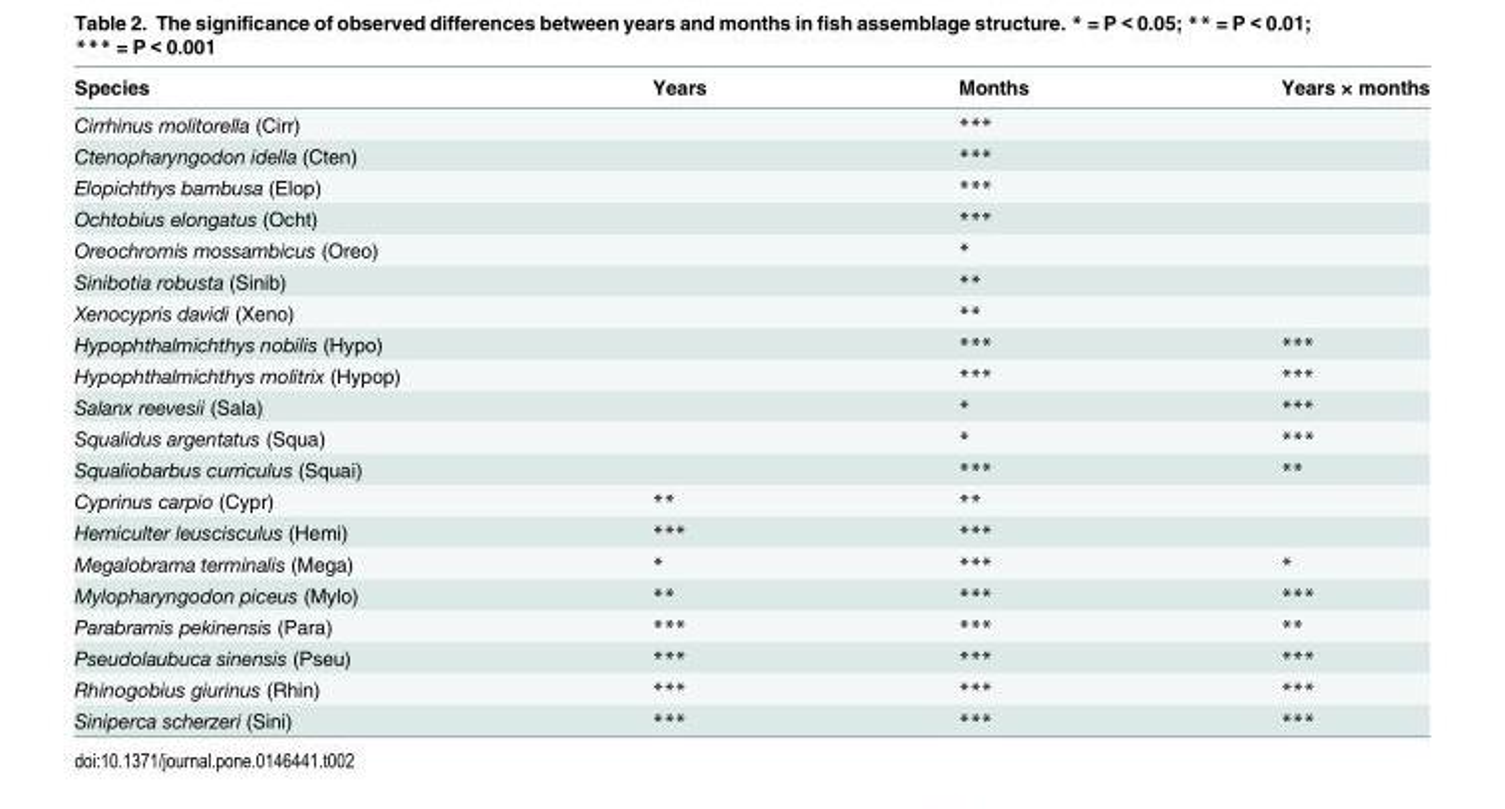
<table><thead><tr><td>Species</td><td>Years</td><td>Months</td><td>Years × months</td></tr></thead><tbody><tr><td>Cirrhinus molitorella (Cirr)</td><td></td><td>***</td><td></td></tr><tr><td>Ctenopharyngodon idella (Cten)</td><td></td><td>***</td><td></td></tr><tr><td>Elopichthys bambusa (Elop)</td><td></td><td>***</td><td></td></tr><tr><td>Ochtobius elongatus (Ocht)</td><td></td><td>***</td><td></td></tr><tr><td>Oreochromis mossambicus (Oreo)</td><td></td><td>*</td><td></td></tr><tr><td>Sinibotia robusta (Sinib)</td><td></td><td>**</td><td></td></tr><tr><td>Xenocypris davidi (Xeno)</td><td></td><td>**</td><td></td></tr><tr><td>Hypophthalmichthys nobilis (Hypo)</td><td></td><td>***</td><td>***</td></tr><tr><td>Hypophthalmichthys molitrix (Hypop)</td><td></td><td>***</td><td>***</td></tr><tr><td>Salanx reevesii (Sala)</td><td></td><td>*</td><td>***</td></tr><tr><td>Squalidus argentatus (Squa)</td><td></td><td>*</td><td>***</td></tr><tr><td>Squaliobarbus curriculus (Squai)</td><td></td><td>***</td><td>**</td></tr><tr><td>Cyprinus carpio (Cypr)</td><td>**</td><td>**</td><td></td></tr><tr><td>Hemiculter leuscisculus (Hemi)</td><td>***</td><td>***</td><td></td></tr><tr><td>Megalobrama terminalis (Mega)</td><td>*</td><td>***</td><td>*</td></tr><tr><td>Mylopharyngodon piceus (Mylo)</td><td>**</td><td>***</td><td>***</td></tr><tr><td>Parabramis pekinensis (Para)</td><td>***</td><td>***</td><td>**</td></tr><tr><td>Pseudolaubuca sinensis (Pseu)</td><td>***</td><td>***</td><td>***</td></tr><tr><td>Rhinogobius giurinus (Rhin)</td><td>***</td><td>***</td><td>***</td></tr><tr><td>Siniperca scherzeri (Sini)</td><td>***</td><td>***</td><td>***</td></tr></tbody></table>